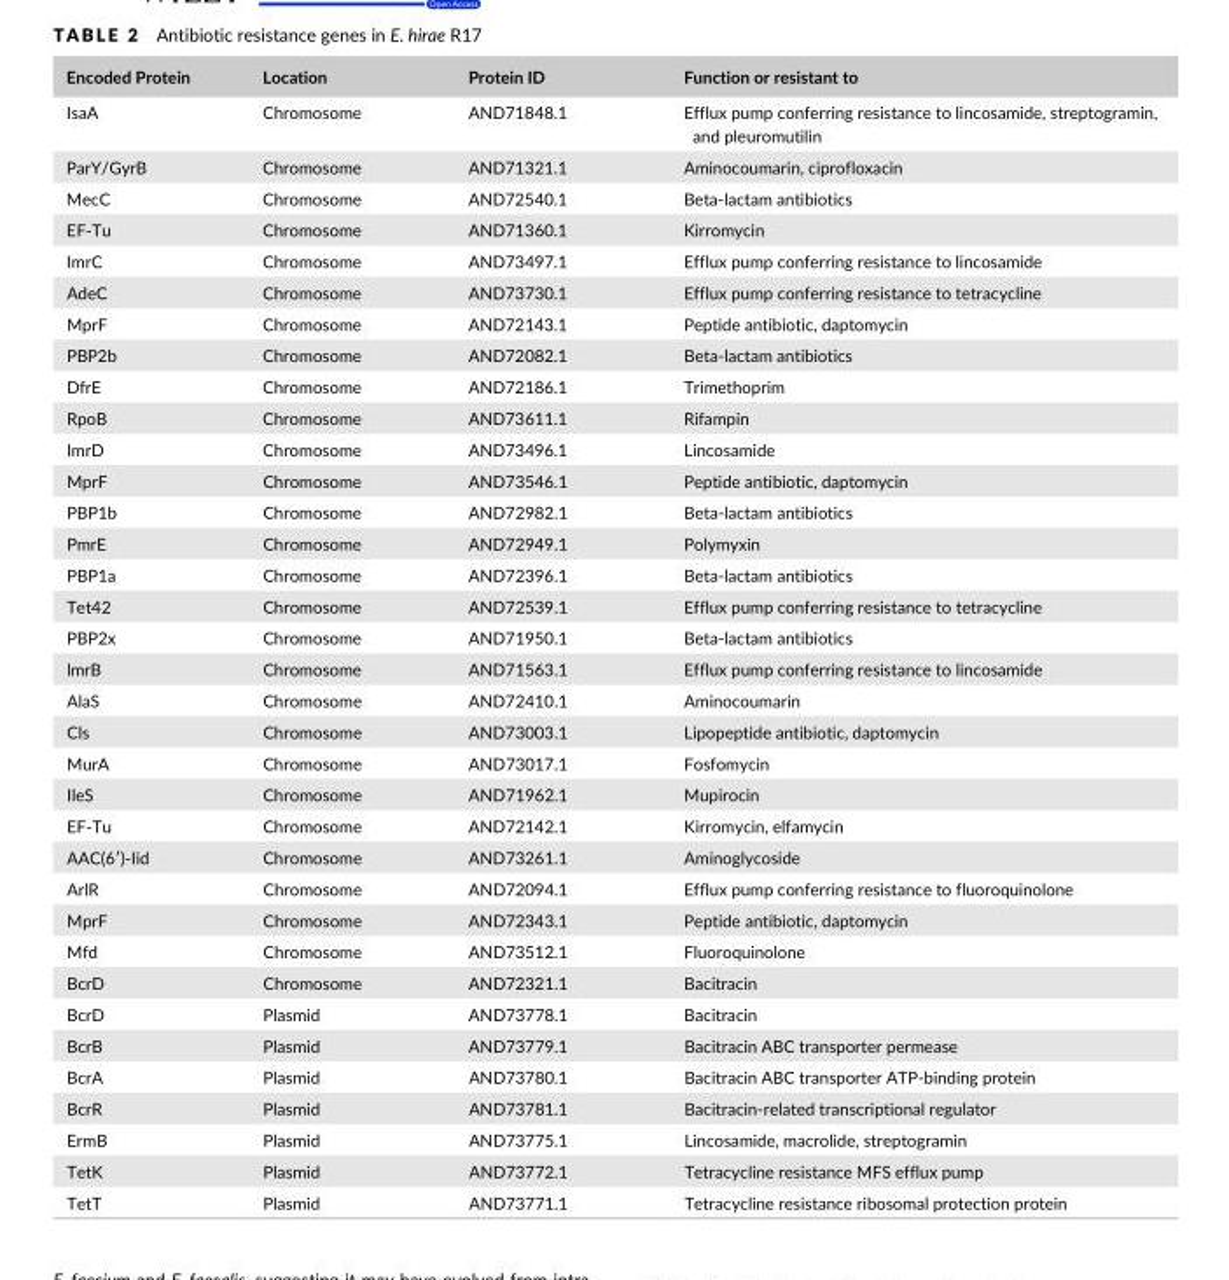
<table><thead><tr><td>Encoded Protein</td><td>Location</td><td>Protein ID</td><td>Function or resistant to</td></tr></thead><tbody><tr><td>IsaA</td><td>Chromosome</td><td>AND71848.1</td><td>Efflux pump conferring resistance to lincosamide, streptogramin, and pleuromutilin</td></tr><tr><td>ParY/GyrB</td><td>Chromosome</td><td>AND71321.1</td><td>Aminocoumarin, ciprofloxacin</td></tr><tr><td>MecC</td><td>Chromosome</td><td>AND72540.1</td><td>Beta- lactam antibiotics</td></tr><tr><td>EF- Tu</td><td>Chromosome</td><td>AND71360.1</td><td>Kirromycin</td></tr><tr><td>ImrC</td><td>Chromosome</td><td>AND73497.1</td><td>Efflux pump conferring resistance to lincosamide</td></tr><tr><td>AdeC</td><td>Chromosome</td><td>AND73730.1</td><td>Efflux pump conferring resistance to tetracycline</td></tr><tr><td>MprF</td><td>Chromosome</td><td>AND72143.1</td><td>Peptide antibiotic, daptomycin</td></tr><tr><td>PBP2b</td><td>Chromosome</td><td>AND72082.1</td><td>Beta- lactam antibiotics</td></tr><tr><td>DfrE</td><td>Chromosome</td><td>AND72186.1</td><td>Trimethoprim</td></tr><tr><td>RpoB</td><td>Chromosome</td><td>AND73611.1</td><td>Rifampin</td></tr><tr><td>ImrD</td><td>Chromosome</td><td>AND73496.1</td><td>Lincosamide</td></tr><tr><td>MprF</td><td>Chromosome</td><td>AND73546.1</td><td>Peptide antibiotic, daptomycin</td></tr><tr><td>PBP1b</td><td>Chromosome</td><td>AND72982.1</td><td>Beta- lactam antibiotics</td></tr><tr><td>PmrE</td><td>Chromosome</td><td>AND72949.1</td><td>Polymyxin</td></tr><tr><td>PBP1a</td><td>Chromosome</td><td>AND72396.1</td><td>Beta- lactam antibiotics</td></tr><tr><td>Tet42</td><td>Chromosome</td><td>AND72539.1</td><td>Efflux pump conferring resistance to tetracycline</td></tr><tr><td>PBP2x</td><td>Chromosome</td><td>AND71950.1</td><td>Beta- lactam antibiotics</td></tr><tr><td>lmrB</td><td>Chromosome</td><td>AND71563.1</td><td>Efflux pump conferring resistance to lincosamide</td></tr><tr><td>AlaS</td><td>Chromosome</td><td>AND72410.1</td><td>Aminocoumarin</td></tr><tr><td>Cls</td><td>Chromosome</td><td>AND73003.1</td><td>Lipopeptide antibiotic, daptomycin</td></tr><tr><td>MurA</td><td>Chromosome</td><td>AND73017.1</td><td>Fosfomycin</td></tr><tr><td>IleS</td><td>Chromosome</td><td>AND71962.1</td><td>Mupirocin</td></tr><tr><td>EF- Tu</td><td>Chromosome</td><td>AND72142.1</td><td>Kirromycin, elfamycin</td></tr><tr><td>AAC(6′)- Iid</td><td>Chromosome</td><td>AND73261.1</td><td>Aminoglycoside</td></tr><tr><td>ArlR</td><td>Chromosome</td><td>AND72094.1</td><td>Efflux pump conferring resistance to fluoroquinolone</td></tr><tr><td>MprF</td><td>Chromosome</td><td>AND72343.1</td><td>Peptide antibiotic, daptomycin</td></tr><tr><td>Mfd</td><td>Chromosome</td><td>AND73512.1</td><td>Fluoroquinolone</td></tr><tr><td>BcrD</td><td>Chromosome</td><td>AND72321.1</td><td>Bacitracin</td></tr><tr><td>BcrD</td><td>Plasmid</td><td>AND73778.1</td><td>Bacitracin</td></tr><tr><td>BcrB</td><td>Plasmid</td><td>AND73779.1</td><td>Bacitracin ABC transporter permease</td></tr><tr><td>BcrA</td><td>Plasmid</td><td>AND73780.1</td><td>Bacitracin ABC transporter ATP- binding protein</td></tr><tr><td>BcrR</td><td>Plasmid</td><td>AND73781.1</td><td>Bacitracin- related transcriptional regulator</td></tr><tr><td>ErmB</td><td>Plasmid</td><td>AND73775.1</td><td>Lincosamide, macrolide, streptogramin</td></tr><tr><td>TetK</td><td>Plasmid</td><td>AND73772.1</td><td>Tetracycline resistance MFS efflux pump</td></tr><tr><td>TetT</td><td>Plasmid</td><td>AND73771.1</td><td>Tetracycline resistance ribosomal protection protein</td></tr></tbody></table>